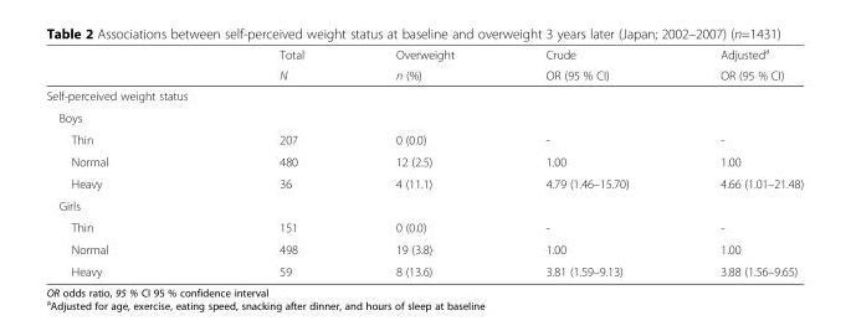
<table><thead><tr><td rowspan="2"></td><td rowspan="2">Total N</td><td rowspan="2">Overweight n (%)</td><td rowspan="2">Crude OR (95 % CI)</td><td rowspan="2">Adjusted<sup>a</sup> OR (95 % CI)</td></tr><tr></tr></thead><tbody><tr><td colspan="5">Self-perceived weight status</td></tr><tr><td colspan="5">Boys</td></tr><tr><td>Thin</td><td>207</td><td>0 (0.0)</td><td>-</td><td>-</td></tr><tr><td>Normal</td><td>480</td><td>12 (2.5)</td><td>1.00</td><td>1.00</td></tr><tr><td>Heavy</td><td>36</td><td>4 (11.1)</td><td>4.79 (1.46–15.70)</td><td>4.66 (1.01–21.48)</td></tr><tr><td colspan="5">Girls</td></tr><tr><td>Thin</td><td>151</td><td>0 (0.0)</td><td>-</td><td>-</td></tr><tr><td>Normal</td><td>498</td><td>19 (3.8)</td><td>1.00</td><td>1.00</td></tr><tr><td>Heavy</td><td>59</td><td>8 (13.6)</td><td>3.81 (1.59–9.13)</td><td>3.88 (1.56–9.65)</td></tr></tbody></table>